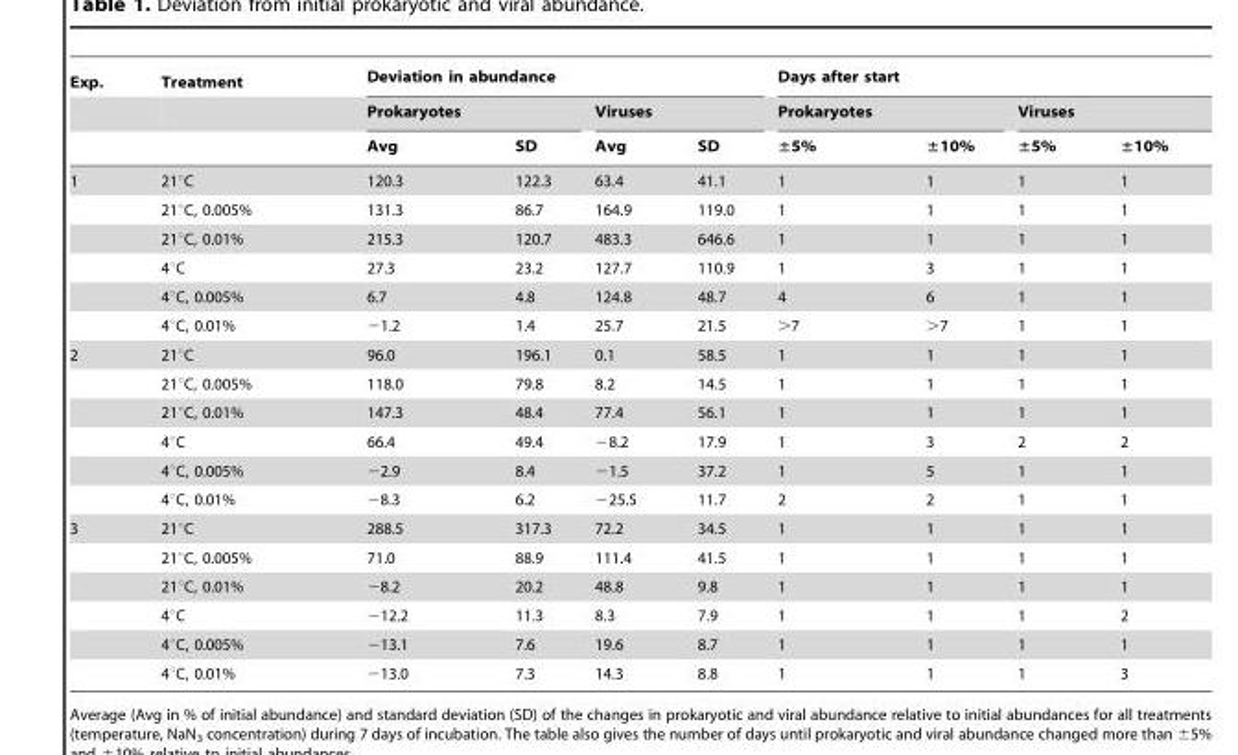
<table><thead><tr><td rowspan="3">Exp.</td><td rowspan="3">Treatment</td><td colspan="4">Deviation in abundance</td><td colspan="4">Days after start</td></tr><tr><td colspan="2">Prokaryotes</td><td colspan="2">Viruses</td><td colspan="2">Prokaryotes</td><td colspan="2">Viruses</td></tr><tr><td>Avg</td><td>SD</td><td>Avg</td><td>SD</td><td>±5%</td><td>±10%</td><td>±5%</td><td>±10%</td></tr></thead><tbody><tr><td rowspan="6">1</td><td>21°C</td><td>120.3</td><td>122.3</td><td>63.4</td><td>41.1</td><td>1</td><td>1</td><td>1</td><td>1</td></tr><tr><td>21°C, 0.005%</td><td>131.3</td><td>86.7</td><td>164.9</td><td>119.0</td><td>1</td><td>1</td><td>1</td><td>1</td></tr><tr><td>21°C, 0.01%</td><td>215.3</td><td>120.7</td><td>483.3</td><td>646.6</td><td>1</td><td>1</td><td>1</td><td>1</td></tr><tr><td>4°C</td><td>27.3</td><td>23.2</td><td>127.7</td><td>110.9</td><td>1</td><td>3</td><td>1</td><td>1</td></tr><tr><td>4°C, 0.005%</td><td>6.7</td><td>4.8</td><td>124.8</td><td>48.7</td><td>4</td><td>6</td><td>1</td><td>1</td></tr><tr><td>4°C, 0.01%</td><td>−1.2</td><td>1.4</td><td>25.7</td><td>21.5</td><td>&gt;7</td><td>&gt;7</td><td>1</td><td>1</td></tr><tr><td rowspan="6">2</td><td>21°C</td><td>96.0</td><td>196.1</td><td>0.1</td><td>58.5</td><td>1</td><td>1</td><td>1</td><td>1</td></tr><tr><td>21°C, 0.005%</td><td>118.0</td><td>79.8</td><td>8.2</td><td>14.5</td><td>1</td><td>1</td><td>1</td><td>1</td></tr><tr><td>21°C, 0.01%</td><td>147.3</td><td>48.4</td><td>77.4</td><td>56.1</td><td>1</td><td>1</td><td>1</td><td>1</td></tr><tr><td>4°C</td><td>66.4</td><td>49.4</td><td>−8.2</td><td>17.9</td><td>1</td><td>3</td><td>2</td><td>2</td></tr><tr><td>4°C, 0.005%</td><td>−2.9</td><td>8.4</td><td>−1.5</td><td>37.2</td><td>1</td><td>5</td><td>1</td><td>1</td></tr><tr><td>4°C, 0.01%</td><td>−8.3</td><td>6.2</td><td>−25.5</td><td>11.7</td><td>2</td><td>2</td><td>1</td><td>1</td></tr><tr><td rowspan="6">3</td><td>21°C</td><td>288.5</td><td>317.3</td><td>72.2</td><td>34.5</td><td>1</td><td>1</td><td>1</td><td>1</td></tr><tr><td>21°C, 0.005%</td><td>71.0</td><td>88.9</td><td>111.4</td><td>41.5</td><td>1</td><td>1</td><td>1</td><td>1</td></tr><tr><td>21°C, 0.01%</td><td>−8.2</td><td>20.2</td><td>48.8</td><td>9.8</td><td>1</td><td>1</td><td>1</td><td>1</td></tr><tr><td>4°C</td><td>−12.2</td><td>11.3</td><td>8.3</td><td>7.9</td><td>1</td><td>1</td><td>1</td><td>2</td></tr><tr><td>4°C, 0.005%</td><td>−13.1</td><td>7.6</td><td>19.6</td><td>8.7</td><td>1</td><td>1</td><td>1</td><td>1</td></tr><tr><td>4°C, 0.01%</td><td>−13.0</td><td>7.3</td><td>14.3</td><td>8.8</td><td>1</td><td>1</td><td>1</td><td>3</td></tr></tbody></table>